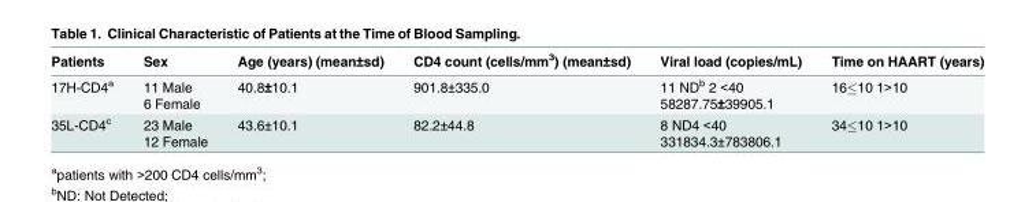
<table><thead><tr><td>Patients</td><td>Sex</td><td>Age (years) (mean±sd)</td><td>CD4 count (cells/mm<sup>3</sup>) (mean±sd)</td><td>Viral load (copies/mL)</td><td>Time on HAART (years)</td></tr></thead><tbody><tr><td>17H-CD4<sup>a</sup></td><td>11 Male 6 Female</td><td>40.8±10.1</td><td>901.8±335.0</td><td>11 ND<sup>b</sup> 2 &lt;40 58287.75±39905.1</td><td>16≤10 1&gt;10</td></tr><tr><td>35L-CD4<sup>c</sup></td><td>23 Male 12 Female</td><td>43.6±10.1</td><td>82.2±44.8</td><td>8 ND4 &lt;40 331834.3±783806.1</td><td>34≤10 1&gt;10</td></tr></tbody></table>